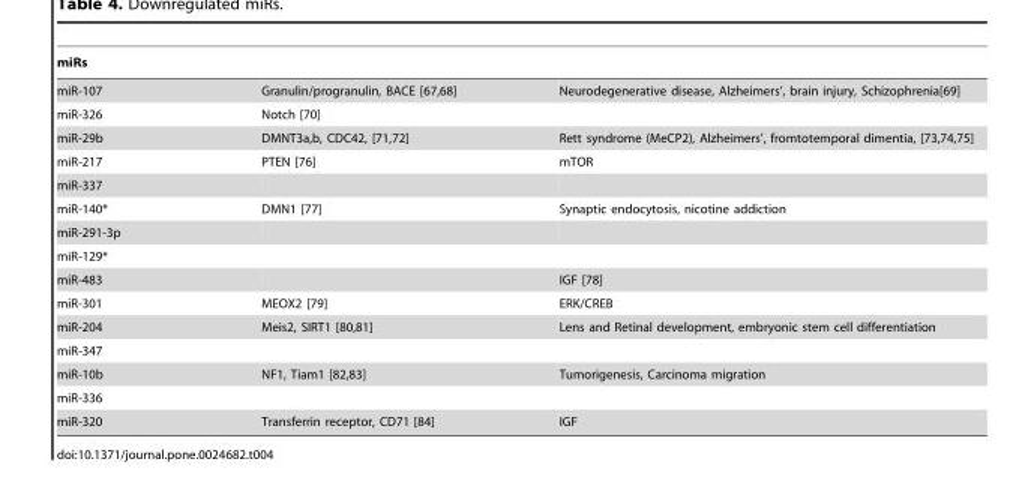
<table><thead><tr><td>miRs</td><td></td><td></td></tr></thead><tbody><tr><td>miR-107</td><td>Granulin/progranulin, BACE [67,68]</td><td>Neurodegenerative disease, Alzheimers’, brain injury, Schizophrenia[69]</td></tr><tr><td>miR-326</td><td>Notch [70]</td><td></td></tr><tr><td>miR-29b</td><td>DMNT3a,b, CDC42, [71,72]</td><td>Rett syndrome (MeCP2), Alzheimers’, fromtotemporal dimentia, [73,74,75]</td></tr><tr><td>miR-217</td><td>PTEN [76]</td><td>mTOR</td></tr><tr><td colspan="3">miR-337</td></tr><tr><td>miR-140*</td><td>DMN1 [77]</td><td>Synaptic endocytosis, nicotine addiction</td></tr><tr><td colspan="3">miR-291-3p</td></tr><tr><td colspan="3">miR-129*</td></tr><tr><td>miR-483</td><td></td><td>IGF [78]</td></tr><tr><td>miR-301</td><td>MEOX2 [79]</td><td>ERK/CREB</td></tr><tr><td>miR-204</td><td>Meis2, SIRT1 [80,81]</td><td>Lens and Retinal development, embryonic stem cell differentiation</td></tr><tr><td colspan="3">miR-347</td></tr><tr><td>miR-10b</td><td>NF1, Tiam1 [82,83]</td><td>Tumorigenesis, Carcinoma migration</td></tr><tr><td colspan="3">miR-336</td></tr><tr><td>miR-320</td><td>Transferrin receptor, CD71 [84]</td><td>IGF</td></tr></tbody></table>